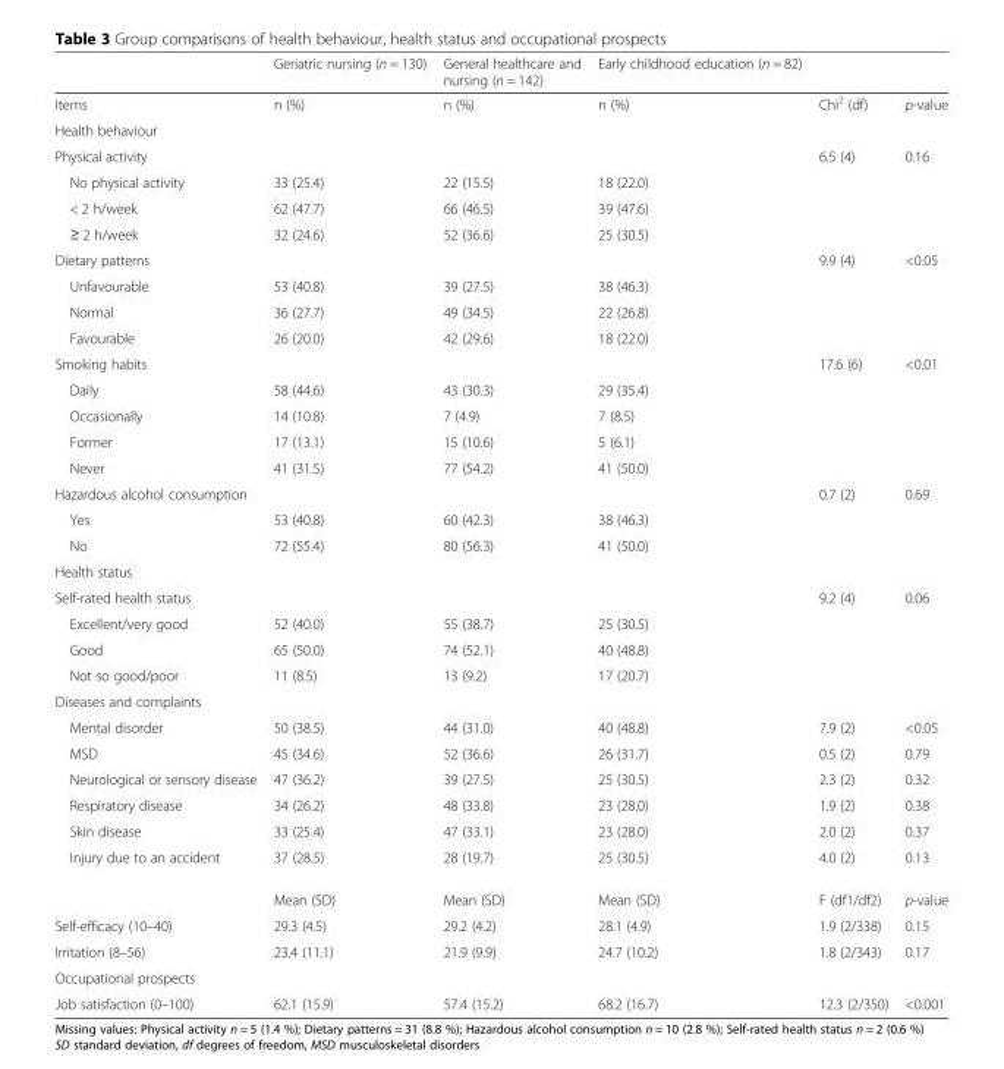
<table><thead><tr><td></td><td>Geriatric nursing (n = 130)</td><td>General healthcare and nursing (n = 142)</td><td>Early childhood education (n = 82)</td><td></td><td></td></tr></thead><tbody><tr><td>Items</td><td>n (%)</td><td>n (%)</td><td>n (%)</td><td>Chi<sup>2</sup> (df)</td><td>p-value</td></tr><tr><td colspan="6">Health behaviour</td></tr><tr><td>Physical activity</td><td></td><td></td><td></td><td>6.5 (4)</td><td>0.16</td></tr><tr><td>No physical activity</td><td>33 (25.4)</td><td>22 (15.5)</td><td>18 (22.0)</td><td></td><td></td></tr><tr><td>&lt; 2 h/week</td><td>62 (47.7)</td><td>66 (46.5)</td><td>39 (47.6)</td><td></td><td></td></tr><tr><td>≥ 2 h/week</td><td>32 (24.6)</td><td>52 (36.6)</td><td>25 (30.5)</td><td></td><td></td></tr><tr><td>Dietary patterns</td><td></td><td></td><td></td><td>9.9 (4)</td><td>&lt;0.05</td></tr><tr><td>Unfavourable</td><td>53 (40.8)</td><td>39 (27.5)</td><td>38 (46.3)</td><td></td><td></td></tr><tr><td>Normal</td><td>36 (27.7)</td><td>49 (34.5)</td><td>22 (26.8)</td><td></td><td></td></tr><tr><td>Favourable</td><td>26 (20.0)</td><td>42 (29.6)</td><td>18 (22.0)</td><td></td><td></td></tr><tr><td>Smoking habits</td><td></td><td></td><td></td><td>17.6 (6)</td><td>&lt;0.01</td></tr><tr><td>Daily</td><td>58 (44.6)</td><td>43 (30.3)</td><td>29 (35.4)</td><td></td><td></td></tr><tr><td>Occasionally</td><td>14 (10.8)</td><td>7 (4.9)</td><td>7 (8.5)</td><td></td><td></td></tr><tr><td>Former</td><td>17 (13.1)</td><td>15 (10.6)</td><td>5 (6.1)</td><td></td><td></td></tr><tr><td>Never</td><td>41 (31.5)</td><td>77 (54.2)</td><td>41 (50.0)</td><td></td><td></td></tr><tr><td>Hazardous alcohol consumption</td><td></td><td></td><td></td><td>0.7 (2)</td><td>0.69</td></tr><tr><td>Yes</td><td>53 (40.8)</td><td>60 (42.3)</td><td>38 (46.3)</td><td></td><td></td></tr><tr><td>No</td><td>72 (55.4)</td><td>80 (56.3)</td><td>41 (50.0)</td><td></td><td></td></tr><tr><td colspan="6">Health status</td></tr><tr><td>Self-rated health status</td><td></td><td></td><td></td><td>9.2 (4)</td><td>0.06</td></tr><tr><td>Excellent/very good</td><td>52 (40.0)</td><td>55 (38.7)</td><td>25 (30.5)</td><td></td><td></td></tr><tr><td>Good</td><td>65 (50.0)</td><td>74 (52.1)</td><td>40 (48.8)</td><td></td><td></td></tr><tr><td>Not so good/poor</td><td>11 (8.5)</td><td>13 (9.2)</td><td>17 (20.7)</td><td></td><td></td></tr><tr><td colspan="6">Diseases and complaints</td></tr><tr><td>Mental disorder</td><td>50 (38.5)</td><td>44 (31.0)</td><td>40 (48.8)</td><td>7.9 (2)</td><td>&lt;0.05</td></tr><tr><td>MSD</td><td>45 (34.6)</td><td>52 (36.6)</td><td>26 (31.7)</td><td>0.5 (2)</td><td>0.79</td></tr><tr><td>Neurological or sensory disease</td><td>47 (36.2)</td><td>39 (27.5)</td><td>25 (30.5)</td><td>2.3 (2)</td><td>0.32</td></tr><tr><td>Respiratory disease</td><td>34 (26.2)</td><td>48 (33.8)</td><td>23 (28.0)</td><td>1.9 (2)</td><td>0.38</td></tr><tr><td>Skin disease</td><td>33 (25.4)</td><td>47 (33.1)</td><td>23 (28.0)</td><td>2.0 (2)</td><td>0.37</td></tr><tr><td rowspan="2">Injury due to an accident</td><td>37 (28.5)</td><td>28 (19.7)</td><td>25 (30.5)</td><td>4.0 (2)</td><td>0.13</td></tr><tr><td>Mean (SD)</td><td>Mean (SD)</td><td>Mean (SD)</td><td>F (df1/df2)</td><td>p-value</td></tr><tr><td>Self-efficacy (10–40)</td><td>29.3 (4.5)</td><td>29.2 (4.2)</td><td>28.1 (4.9)</td><td>1.9 (2/338)</td><td>0.15</td></tr><tr><td>Irritation (8–56)</td><td>23.4 (11.1)</td><td>21.9 (9.9)</td><td>24.7 (10.2)</td><td>1.8 (2/343)</td><td>0.17</td></tr><tr><td colspan="6">Occupational prospects</td></tr><tr><td>Job satisfaction (0–100)</td><td>62.1 (15.9)</td><td>57.4 (15.2)</td><td>68.2 (16.7)</td><td>12.3 (2/350)</td><td>&lt;0.001</td></tr></tbody></table>